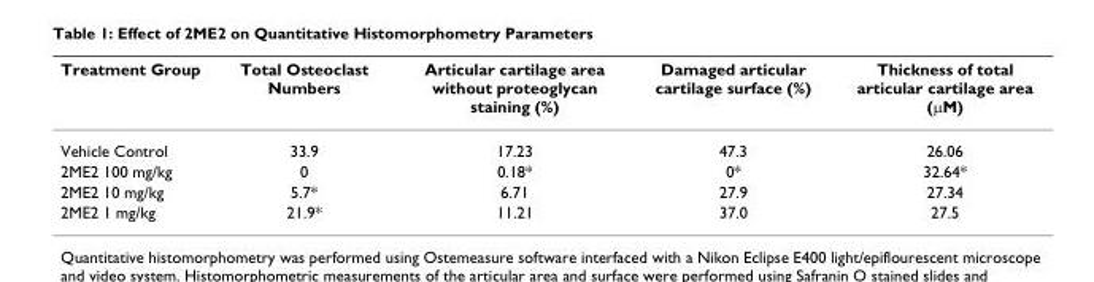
<table><thead><tr><td>Treatment Group</td><td>Total Osteoclast Numbers</td><td>Articular cartilage area without proteoglycan staining (%)</td><td>Damaged articular cartilage surface (%)</td><td>Thickness of total articular cartilage area (μM)</td></tr></thead><tbody><tr><td>Vehicle Control</td><td>33.9</td><td>17.23</td><td>47.3</td><td>26.06</td></tr><tr><td>2ME2 100 mg/kg</td><td>0</td><td>0.18*</td><td>0*</td><td>32.64*</td></tr><tr><td>2ME2 10 mg/kg</td><td>5.7*</td><td>6.71</td><td>27.9</td><td>27.34</td></tr><tr><td>2ME2 1 mg/kg</td><td>21.9*</td><td>11.21</td><td>37.0</td><td>27.5</td></tr></tbody></table>